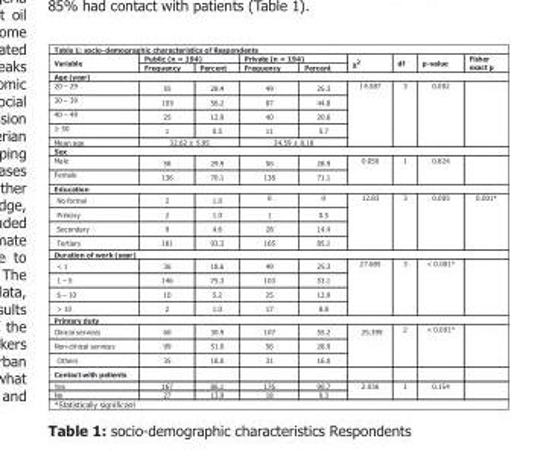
<table><thead><tr><td rowspan="2">Variable</td><td colspan="2">Public (n = 194)</td><td colspan="2">Private (n = 194)</td><td rowspan="2">χ<sup>2</sup></td><td rowspan="2">df</td><td rowspan="2">pvalue</td><td rowspan="2">Fisher exact p</td></tr><tr><td>Frequency</td><td>Percent</td><td>Frequency</td><td>Percent</td></tr></thead><tbody><tr><td colspan="9">Age (year)</td></tr><tr><td>20 – 29</td><td>55</td><td>28.4</td><td>49</td><td>25.3</td><td rowspan="5">14.587</td><td rowspan="5">3</td><td rowspan="5">0.002</td><td rowspan="5"></td></tr><tr><td>30 – 39</td><td>109</td><td>56.2</td><td>87</td><td>44.8</td></tr><tr><td>40 – 49</td><td>25</td><td>12.9</td><td>40</td><td>20.6</td></tr><tr><td>≥ 50</td><td>1</td><td>0.5</td><td>11</td><td>5.7</td></tr><tr><td>Mean age</td><td colspan="2">32.62 ± 5.95</td><td colspan="2">34.59 ± 8.18</td></tr><tr><td colspan="9">Sex</td></tr><tr><td>Male</td><td>58</td><td>29.9</td><td>56</td><td>28.9</td><td rowspan="2">0.050</td><td rowspan="2">1</td><td rowspan="2">0.824</td><td rowspan="2"></td></tr><tr><td>Female</td><td>136</td><td>70.1</td><td>138</td><td>71.1</td></tr><tr><td colspan="9">Education</td></tr><tr><td>No formal</td><td>2</td><td>1.0</td><td>0</td><td>0</td><td rowspan="4">12.83</td><td rowspan="4">3</td><td rowspan="4">0.005</td><td rowspan="4">0.001*</td></tr><tr><td>Primary</td><td>2</td><td>1.0</td><td>1</td><td>0.5</td></tr><tr><td>Secondary</td><td>9</td><td>4.6</td><td>28</td><td>14.4</td></tr><tr><td>Tertiary</td><td>181</td><td>93.3</td><td>165</td><td>85.1</td></tr><tr><td colspan="9">Duration of work (year)</td></tr><tr><td>&lt; 1</td><td>36</td><td>18.6</td><td>49</td><td>25.3</td><td rowspan="4">27.685</td><td rowspan="4">3</td><td rowspan="4">&lt; 0.001*</td><td rowspan="4"></td></tr><tr><td>1 – 5</td><td>146</td><td>75.3</td><td>103</td><td>53.1</td></tr><tr><td>6 – 10</td><td>10</td><td>5.2</td><td>25</td><td>12.9</td></tr><tr><td>&gt; 10</td><td>2</td><td>1.0</td><td>17</td><td>8.8</td></tr><tr><td colspan="9">Primary duty</td></tr><tr><td>Clinical services</td><td>60</td><td>30.9</td><td>107</td><td>55.2</td><td rowspan="3">25.399</td><td rowspan="3">2</td><td rowspan="3">&lt; 0.001*</td><td rowspan="3"></td></tr><tr><td>Nonclinical services</td><td>99</td><td>51.0</td><td>56</td><td>28.9</td></tr><tr><td>Others</td><td>35</td><td>18.0</td><td>31</td><td>16.0</td></tr><tr><td colspan="9">Contact with patients</td></tr><tr><td>Yes</td><td>167</td><td>86.1</td><td>176</td><td>90.7</td><td rowspan="2">2.036</td><td rowspan="2">1</td><td rowspan="2">0.154</td><td rowspan="2"></td></tr><tr><td>No</td><td>27</td><td>13.9</td><td>18</td><td>9.3</td></tr></tbody></table>